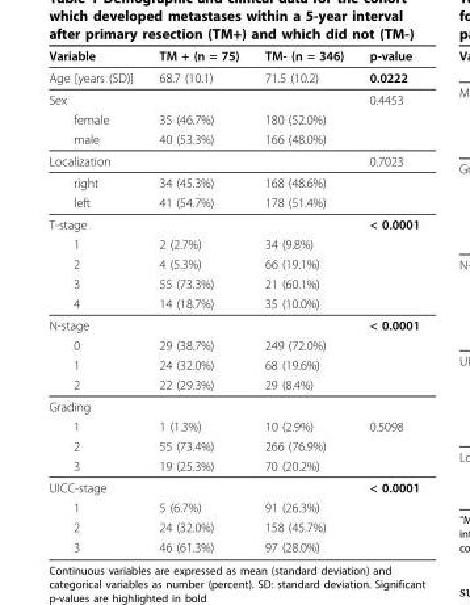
<table><thead><tr><td>Variable</td><td>TM + (n = 75)</td><td>TM- (n = 346)</td><td>p-value</td></tr></thead><tbody><tr><td>Age [years (SD)]</td><td>68.7 (10.1)</td><td>71.5 (10.2)</td><td>0.0222</td></tr><tr><td>Sex</td><td></td><td></td><td>0.4453</td></tr><tr><td>female</td><td>35 (46.7%)</td><td>180 (52.0%)</td><td></td></tr><tr><td>male</td><td>40 (53.3%)</td><td>166 (48.0%)</td><td></td></tr><tr><td>Localization</td><td></td><td></td><td>0.7023</td></tr><tr><td>right</td><td>34 (45.3%)</td><td>168 (48.6%)</td><td></td></tr><tr><td>left</td><td>41 (54.7%)</td><td>178 (51.4%)</td><td></td></tr><tr><td>T-stage</td><td></td><td></td><td>&lt; 0.0001</td></tr><tr><td>1</td><td>2 (2.7%)</td><td>34 (9.8%)</td><td></td></tr><tr><td>2</td><td>4 (5.3%)</td><td>66 (19.1%)</td><td></td></tr><tr><td>3</td><td>55 (73.3%)</td><td>21 (60.1%)</td><td></td></tr><tr><td>4</td><td>14 (18.7%)</td><td>35 (10.0%)</td><td></td></tr><tr><td>N-stage</td><td></td><td></td><td>&lt; 0.0001</td></tr><tr><td>0</td><td>29 (38.7%)</td><td>249 (72.0%)</td><td></td></tr><tr><td>1</td><td>24 (32.0%)</td><td>68 (19.6%)</td><td></td></tr><tr><td>2</td><td>22 (29.3%)</td><td>29 (8.4%)</td><td></td></tr><tr><td colspan="4">Grading</td></tr><tr><td>1</td><td>1 (1.3%)</td><td>10 (2.9%)</td><td>0.5098</td></tr><tr><td>2</td><td>55 (73.4%)</td><td>266 (76.9%)</td><td></td></tr><tr><td>3</td><td>19 (25.3%)</td><td>70 (20.2%)</td><td></td></tr><tr><td>UICC-stage</td><td></td><td></td><td>&lt; 0.0001</td></tr><tr><td>1</td><td>5 (6.7%)</td><td>91 (26.3%)</td><td></td></tr><tr><td>2</td><td>24 (32.0%)</td><td>158 (45.7%)</td><td></td></tr><tr><td>3</td><td>46 (61.3%)</td><td>97 (28.0%)</td><td></td></tr></tbody></table>